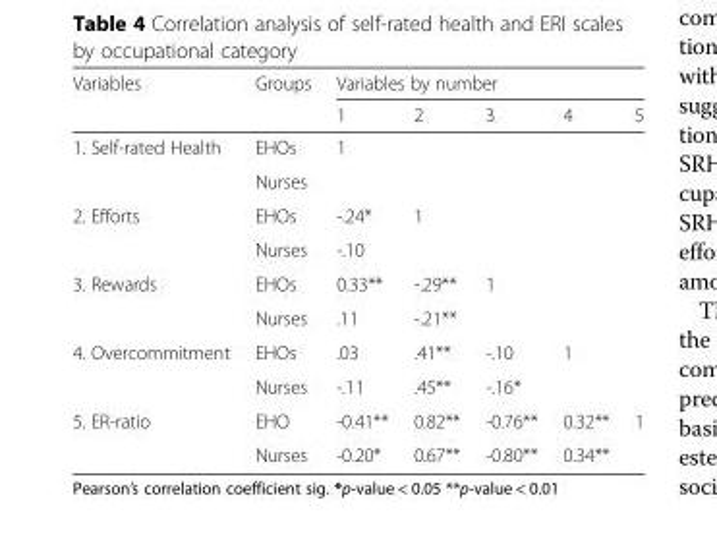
<table><thead><tr><td rowspan="2">Variables</td><td rowspan="2">Groups</td><td colspan="5">Variables by number</td></tr><tr><td>1</td><td>2</td><td>3</td><td>4</td><td>5</td></tr></thead><tbody><tr><td rowspan="2">1. Self-rated Health</td><td>EHOs</td><td>1</td><td></td><td></td><td></td><td></td></tr><tr><td>Nurses</td><td></td><td></td><td></td><td></td><td></td></tr><tr><td rowspan="2">2. Efforts</td><td>EHOs</td><td>-.24*</td><td>1</td><td></td><td></td><td></td></tr><tr><td>Nurses</td><td>-.10</td><td></td><td></td><td></td><td></td></tr><tr><td rowspan="2">3. Rewards</td><td>EHOs</td><td>0.33**</td><td>-.29**</td><td>1</td><td></td><td></td></tr><tr><td>Nurses</td><td>.11</td><td>-.21**</td><td></td><td></td><td></td></tr><tr><td rowspan="2">4. Overcommitment</td><td>EHOs</td><td>.03</td><td>.41**</td><td>-.10</td><td>1</td><td></td></tr><tr><td>Nurses</td><td>-.11</td><td>.45**</td><td>-.16*</td><td></td><td></td></tr><tr><td rowspan="2">5. ER-ratio</td><td>EHO</td><td>-0.41**</td><td>0.82**</td><td>-0.76**</td><td>0.32**</td><td>1</td></tr><tr><td>Nurses</td><td>-0.20*</td><td>0.67**</td><td>-0.80**</td><td>0.34**</td><td></td></tr></tbody></table>